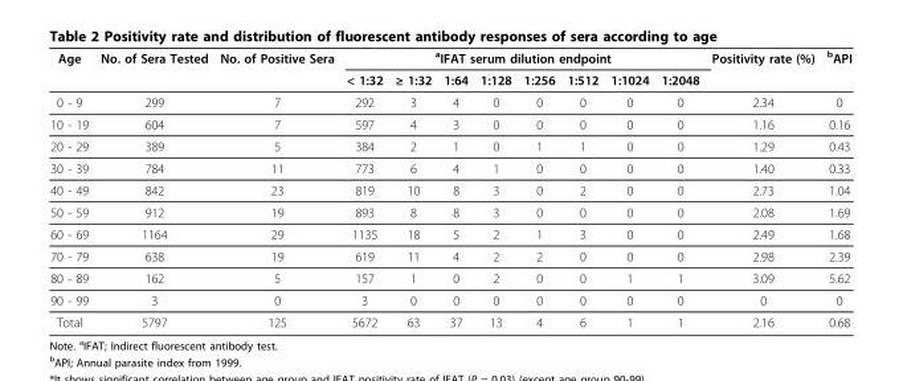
<table><thead><tr><td rowspan="2">Age</td><td rowspan="2">No. of Sera Tested</td><td rowspan="2">No. of Positive Sera</td><td colspan="8"><sup>a</sup>IFAT serum dilution endpoint</td><td rowspan="2">Positivity rate (%)</td><td rowspan="2"><sup>b</sup>API</td></tr><tr><td>&lt; 1:32</td><td>≥ 1:32</td><td>1:64</td><td>1:128</td><td>1:256</td><td>1:512</td><td>1:1024</td><td>1:2048</td></tr></thead><tbody><tr><td>0 - 9</td><td>299</td><td>7</td><td>292</td><td>3</td><td>4</td><td>0</td><td>0</td><td>0</td><td>0</td><td>0</td><td>2.34</td><td>0</td></tr><tr><td>10 - 19</td><td>604</td><td>7</td><td>597</td><td>4</td><td>3</td><td>0</td><td>0</td><td>0</td><td>0</td><td>0</td><td>1.16</td><td>0.16</td></tr><tr><td>20 - 29</td><td>389</td><td>5</td><td>384</td><td>2</td><td>1</td><td>0</td><td>1</td><td>1</td><td>0</td><td>0</td><td>1.29</td><td>0.43</td></tr><tr><td>30 - 39</td><td>784</td><td>11</td><td>773</td><td>6</td><td>4</td><td>1</td><td>0</td><td>0</td><td>0</td><td>0</td><td>1.40</td><td>0.33</td></tr><tr><td>40 - 49</td><td>842</td><td>23</td><td>819</td><td>10</td><td>8</td><td>3</td><td>0</td><td>2</td><td>0</td><td>0</td><td>2.73</td><td>1.04</td></tr><tr><td>50 - 59</td><td>912</td><td>19</td><td>893</td><td>8</td><td>8</td><td>3</td><td>0</td><td>0</td><td>0</td><td>0</td><td>2.08</td><td>1.69</td></tr><tr><td>60 - 69</td><td>1164</td><td>29</td><td>1135</td><td>18</td><td>5</td><td>2</td><td>1</td><td>3</td><td>0</td><td>0</td><td>2.49</td><td>1.68</td></tr><tr><td>70 - 79</td><td>638</td><td>19</td><td>619</td><td>11</td><td>4</td><td>2</td><td>2</td><td>0</td><td>0</td><td>0</td><td>2.98</td><td>2.39</td></tr><tr><td>80 - 89</td><td>162</td><td>5</td><td>157</td><td>1</td><td>0</td><td>2</td><td>0</td><td>0</td><td>1</td><td>1</td><td>3.09</td><td>5.62</td></tr><tr><td>90 - 99</td><td>3</td><td>0</td><td>3</td><td>0</td><td>0</td><td>0</td><td>0</td><td>0</td><td>0</td><td>0</td><td>0</td><td>0</td></tr><tr><td>Total</td><td>5797</td><td>125</td><td>5672</td><td>63</td><td>37</td><td>13</td><td>4</td><td>6</td><td>1</td><td>1</td><td>2.16</td><td>0.68</td></tr></tbody></table>